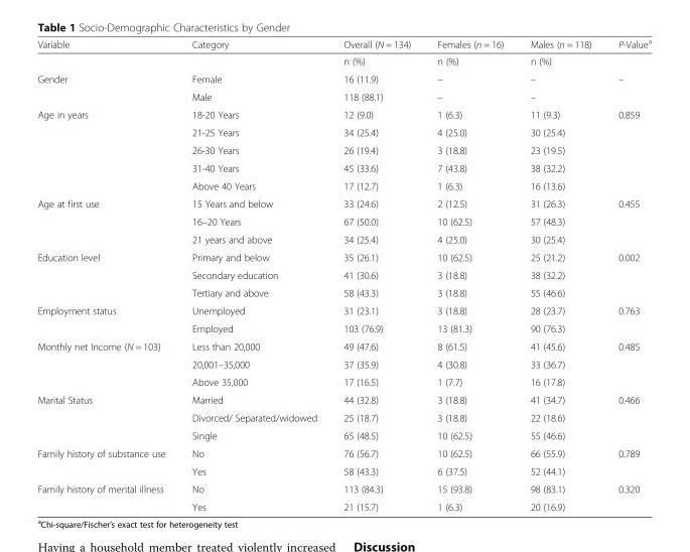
<table><thead><tr><td>Variable</td><td>Category</td><td>Overall (N = 134)</td><td>Females (n = 16)</td><td>Males (n = 118)</td><td>P-Value<sup>a</sup></td></tr></thead><tbody><tr><td></td><td></td><td>n (%)</td><td>n (%)</td><td>n (%)</td><td></td></tr><tr><td rowspan="2">Gender</td><td>Female</td><td>16 (11.9)</td><td>–</td><td>–</td><td rowspan="2">–</td></tr><tr><td>Male</td><td>118 (88.1)</td><td>–</td><td>–</td></tr><tr><td rowspan="5">Age in years</td><td>18-20 Years</td><td>12 (9.0)</td><td>1 (6.3)</td><td>11 (9.3)</td><td rowspan="5">0.859</td></tr><tr><td>21-25 Years</td><td>34 (25.4)</td><td>4 (25.0)</td><td>30 (25.4)</td></tr><tr><td>26-30 Years</td><td>26 (19.4)</td><td>3 (18.8)</td><td>23 (19.5)</td></tr><tr><td>31-40 Years</td><td>45 (33.6)</td><td>7 (43.8)</td><td>38 (32.2)</td></tr><tr><td>Above 40 Years</td><td>17 (12.7)</td><td>1 (6.3)</td><td>16 (13.6)</td></tr><tr><td rowspan="3">Age at first use</td><td>15 Years and below</td><td>33 (24.6)</td><td>2 (12.5)</td><td>31 (26.3)</td><td rowspan="3">0.455</td></tr><tr><td>16–20 Years</td><td>67 (50.0)</td><td>10 (62.5)</td><td>57 (48.3)</td></tr><tr><td>21 years and above</td><td>34 (25.4)</td><td>4 (25.0)</td><td>30 (25.4)</td></tr><tr><td rowspan="3">Education level</td><td>Primary and below</td><td>35 (26.1)</td><td>10 (62.5)</td><td>25 (21.2)</td><td rowspan="3">0.002</td></tr><tr><td>Secondary education</td><td>41 (30.6)</td><td>3 (18.8)</td><td>38 (32.2)</td></tr><tr><td>Tertiary and above</td><td>58 (43.3)</td><td>3 (18.8)</td><td>55 (46.6)</td></tr><tr><td rowspan="2">Employment status</td><td>Unemployed</td><td>31 (23.1)</td><td>3 (18.8)</td><td>28 (23.7)</td><td rowspan="2">0.763</td></tr><tr><td>Employed</td><td>103 (76.9)</td><td>13 (81.3)</td><td>90 (76.3)</td></tr><tr><td rowspan="3">Monthly net Income (N = 103)</td><td>Less than 20,000</td><td>49 (47.6)</td><td>8 (61.5)</td><td>41 (45.6)</td><td rowspan="3">0.485</td></tr><tr><td>20,001–35,000</td><td>37 (35.9)</td><td>4 (30.8)</td><td>33 (36.7)</td></tr><tr><td>Above 35,000</td><td>17 (16.5)</td><td>1 (7.7)</td><td>16 (17.8)</td></tr><tr><td rowspan="3">Marital Status</td><td>Married</td><td>44 (32.8)</td><td>3 (18.8)</td><td>41 (34.7)</td><td rowspan="3">0.466</td></tr><tr><td>Divorced/ Separated/widowed</td><td>25 (18.7)</td><td>3 (18.8)</td><td>22 (18.6)</td></tr><tr><td>Single</td><td>65 (48.5)</td><td>10 (62.5)</td><td>55 (46.6)</td></tr><tr><td rowspan="2">Family history of substance use</td><td>No</td><td>76 (56.7)</td><td>10 (62.5)</td><td>66 (55.9)</td><td rowspan="2">0.789</td></tr><tr><td>Yes</td><td>58 (43.3)</td><td>6 (37.5)</td><td>52 (44.1)</td></tr><tr><td rowspan="2">Family history of mental illness</td><td>No</td><td>113 (84.3)</td><td>15 (93.8)</td><td>98 (83.1)</td><td rowspan="2">0.320</td></tr><tr><td>Yes</td><td>21 (15.7)</td><td>1 (6.3)</td><td>20 (16.9)</td></tr></tbody></table>